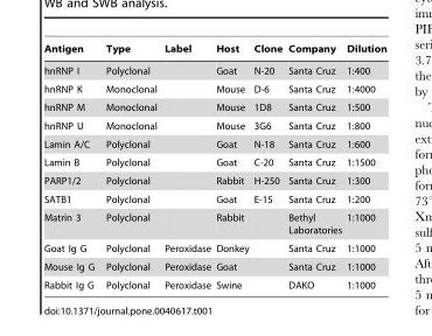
<table><thead><tr><td>Antigen</td><td>Type</td><td>Label</td><td>Host</td><td>Clone</td><td>Company</td><td>Dilution</td></tr></thead><tbody><tr><td>hnRNP I</td><td>Polyclonal</td><td></td><td>Goat</td><td>N-20</td><td>Santa Cruz</td><td>1:400</td></tr><tr><td>hnRNP K</td><td>Monoclonal</td><td></td><td>Mouse</td><td>D-6</td><td>Santa Cruz</td><td>1:4000</td></tr><tr><td>hnRNP M</td><td>Monoclonal</td><td></td><td>Mouse</td><td>1D8</td><td>Santa Cruz</td><td>1:500</td></tr><tr><td>hnRNP U</td><td>Monoclonal</td><td></td><td>Mouse</td><td>3G6</td><td>Santa Cruz</td><td>1:800</td></tr><tr><td>Lamin A/C</td><td>Polyclonal</td><td></td><td>Goat</td><td>N-18</td><td>Santa Cruz</td><td>1:600</td></tr><tr><td>Lamin B</td><td>Polyclonal</td><td></td><td>Goat</td><td>C-20</td><td>Santa Cruz</td><td>1:1500</td></tr><tr><td>PARP1/2</td><td>Polyclonal</td><td></td><td>Rabbit</td><td>H-250</td><td>Santa Cruz</td><td>1:300</td></tr><tr><td>SATB1</td><td>Polyclonal</td><td></td><td>Goat</td><td>E-15</td><td>Santa Cruz</td><td>1:200</td></tr><tr><td>Matrin 3</td><td>Polyclonal</td><td></td><td>Rabbit</td><td></td><td>Bethyl Laboratories</td><td>1:1000</td></tr><tr><td>Goat Ig G</td><td>Polyclonal</td><td>Peroxidase</td><td>Donkey</td><td></td><td>Santa Cruz</td><td>1:1000</td></tr><tr><td>Mouse Ig G</td><td>Polyclonal</td><td>Peroxidase</td><td>Goat</td><td></td><td>Santa Cruz</td><td>1:1000</td></tr><tr><td>Rabbit Ig G</td><td>Polyclonal</td><td>Peroxidase</td><td>Swine</td><td></td><td>DAKO</td><td>1:1000</td></tr></tbody></table>